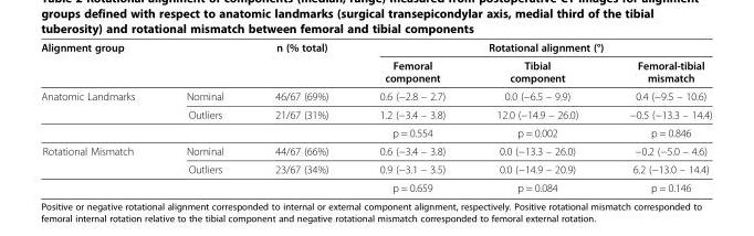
<table><thead><tr><td colspan="2">Alignment group</td><td rowspan="2">n (% total)</td><td colspan="3">Rotational alignment (°)</td></tr><tr><td></td><td></td><td>Femoral component</td><td>Tibial component</td><td>Femoral-tibial mismatch</td></tr></thead><tbody><tr><td rowspan="3">Anatomic Landmarks</td><td>Nominal</td><td>46/67 (69%)</td><td>0.6 (−2.8 – 2.7)</td><td>0.0 (−6.5 – 9.9)</td><td>0.4 (−9.5 – 10.6)</td></tr><tr><td>Outliers</td><td>21/67 (31%)</td><td>1.2 (−3.4 – 3.8)</td><td>12.0 (−14.9 – 26.0)</td><td>−0.5 (−13.3 – 14.4)</td></tr><tr><td></td><td></td><td>p = 0.554</td><td>p = 0.002</td><td>p = 0.846</td></tr><tr><td rowspan="3">Rotational Mismatch</td><td>Nominal</td><td>44/67 (66%)</td><td>0.6 (−3.4 – 3.8)</td><td>0.0 (−13.3 – 26.0)</td><td>−0.2 (−5.0 – 4.6)</td></tr><tr><td>Outliers</td><td>23/67 (34%)</td><td>0.9 (−3.1 – 3.5)</td><td>0.0 (−14.9 – 20.9)</td><td>6.2 (−13.0 – 14.4)</td></tr><tr><td></td><td></td><td>p = 0.659</td><td>p = 0.084</td><td>p = 0.146</td></tr></tbody></table>